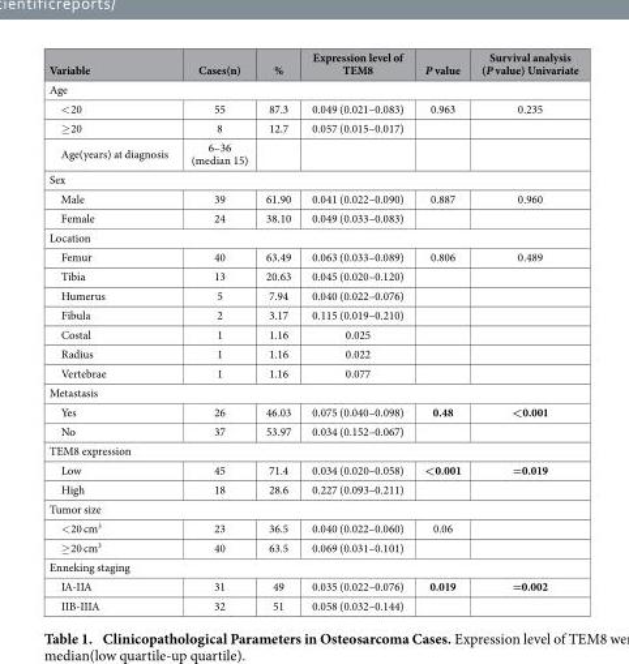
<table><thead><tr><td>Variable</td><td>Cases(n)</td><td>%</td><td>Expression level of TEM8</td><td>P value</td><td>Survival analysis (P value) Univariate</td></tr></thead><tbody><tr><td colspan="6">Age</td></tr><tr><td>&lt; 20</td><td>55</td><td>87.3</td><td>0.049 (0.021–0.083)</td><td>0.963</td><td>0.235</td></tr><tr><td>≥ 20</td><td>8</td><td>12.7</td><td>0.057 (0.015–0.017)</td><td></td><td></td></tr><tr><td>Age(years) at diagnosis</td><td>6–36 (median 15)</td><td></td><td></td><td></td><td></td></tr><tr><td colspan="6">Sex</td></tr><tr><td>Male</td><td>39</td><td>61.90</td><td>0.041 (0.022–0.090)</td><td>0.887</td><td>0.960</td></tr><tr><td>Female</td><td>24</td><td>38.10</td><td>0.049 (0.033–0.083)</td><td></td><td></td></tr><tr><td colspan="6">Location</td></tr><tr><td>Femur</td><td>40</td><td>63.49</td><td>0.063 (0.033–0.089)</td><td>0.806</td><td>0.489</td></tr><tr><td>Tibia</td><td>13</td><td>20.63</td><td>0.045 (0.020–0.120)</td><td></td><td></td></tr><tr><td>Humerus</td><td>5</td><td>7.94</td><td>0.040 (0.022–0.076)</td><td></td><td></td></tr><tr><td>Fibula</td><td>2</td><td>3.17</td><td>0.115 (0.019–0.210)</td><td></td><td></td></tr><tr><td>Costal</td><td>1</td><td>1.16</td><td>0.025</td><td></td><td></td></tr><tr><td>Radius</td><td>1</td><td>1.16</td><td>0.022</td><td></td><td></td></tr><tr><td>Vertebrae</td><td>1</td><td>1.16</td><td>0.077</td><td></td><td></td></tr><tr><td colspan="6">Metastasis</td></tr><tr><td>Yes</td><td>26</td><td>46.03</td><td>0.075 (0.040–0.098)</td><td>0.48</td><td>&lt;0.001</td></tr><tr><td>No</td><td>37</td><td>53.97</td><td>0.034 (0.152–0.067)</td><td></td><td></td></tr><tr><td colspan="6">TEM8 expression</td></tr><tr><td>Low</td><td>45</td><td>71.4</td><td>0.034 (0.020–0.058)</td><td>&lt;0.001</td><td>=0.019</td></tr><tr><td>High</td><td>18</td><td>28.6</td><td>0.227 (0.093–0.211)</td><td></td><td></td></tr><tr><td colspan="6">Tumor size</td></tr><tr><td>&lt; 20 cm<sup>3</sup></td><td>23</td><td>36.5</td><td>0.040 (0.022–0.060)</td><td>0.06</td><td></td></tr><tr><td>≥ 20 cm<sup>3</sup></td><td>40</td><td>63.5</td><td>0.069 (0.031–0.101)</td><td></td><td></td></tr><tr><td colspan="6">Enneking staging</td></tr><tr><td>IA-IIA</td><td>31</td><td>49</td><td>0.035 (0.022–0.076)</td><td>0.019</td><td>=0.002</td></tr><tr><td>IIB-IIIA</td><td>32</td><td>51</td><td>0.058 (0.032–0.144)</td><td></td><td></td></tr></tbody></table>